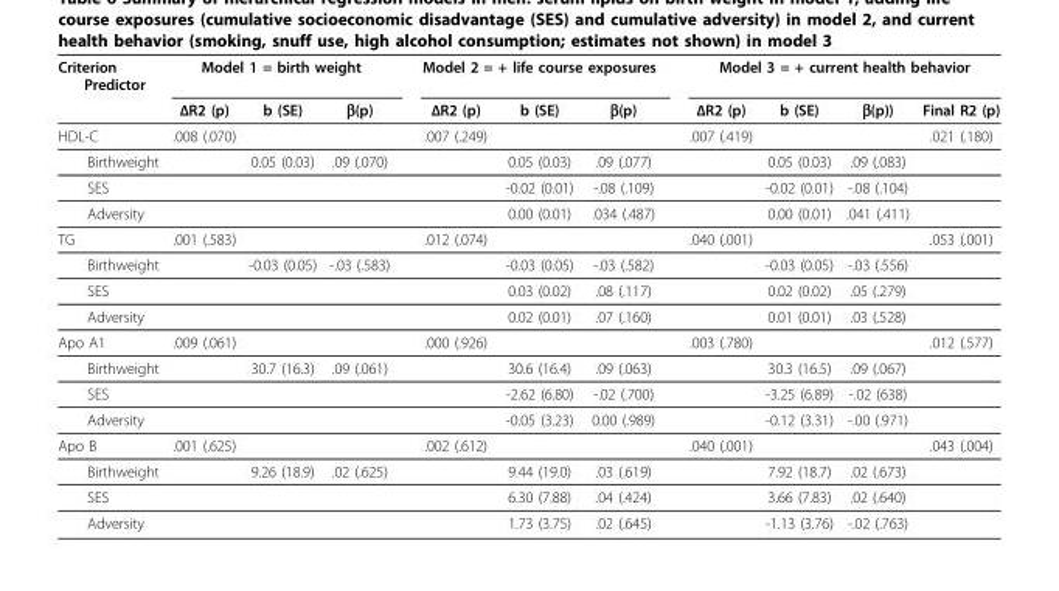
<table><thead><tr><td rowspan="2">Criterion Predictor</td><td colspan="3">Model 1 = birth weight</td><td colspan="3">Model 2 = + life course exposures</td><td colspan="4">Model 3 = + current health behavior</td></tr><tr><td>ΔR2 (p)</td><td>b (SE)</td><td>β(p)</td><td>ΔR2 (p)</td><td>b (SE)</td><td>β(p)</td><td>ΔR2 (p)</td><td>b (SE)</td><td>β(p))</td><td>Final R2 (p)</td></tr></thead><tbody><tr><td>HDL-C</td><td>.008 (.070)</td><td></td><td></td><td>.007 (.249)</td><td></td><td></td><td>.007 (.419)</td><td></td><td></td><td>.021 (.180)</td></tr><tr><td>Birthweight</td><td></td><td>0.05 (0.03)</td><td>.09 (.070)</td><td></td><td>0.05 (0.03)</td><td>.09 (.077)</td><td></td><td>0.05 (0.03)</td><td>.09 (.083)</td><td></td></tr><tr><td>SES</td><td></td><td></td><td></td><td></td><td>-0.02 (0.01)</td><td>-.08 (.109)</td><td></td><td>-0.02 (0.01)</td><td>-.08 (.104)</td><td></td></tr><tr><td>Adversity</td><td></td><td></td><td></td><td></td><td>0.00 (0.01)</td><td>.034 (.487)</td><td></td><td>0.00 (0.01)</td><td>.041 (.411)</td><td></td></tr><tr><td>TG</td><td>.001 (.583)</td><td></td><td></td><td>.012 (.074)</td><td></td><td></td><td>.040 (.001)</td><td></td><td></td><td>.053 (.001)</td></tr><tr><td>Birthweight</td><td></td><td>-0.03 (0.05)</td><td>-.03 (.583)</td><td></td><td>-0.03 (0.05)</td><td>-.03 (.582)</td><td></td><td>-0.03 (0.05)</td><td>-.03 (.556)</td><td></td></tr><tr><td>SES</td><td></td><td></td><td></td><td></td><td>0.03 (0.02)</td><td>.08 (.117)</td><td></td><td>0.02 (0.02)</td><td>.05 (.279)</td><td></td></tr><tr><td>Adversity</td><td></td><td></td><td></td><td></td><td>0.02 (0.01)</td><td>.07 (.160)</td><td></td><td>0.01 (0.01)</td><td>.03 (.528)</td><td></td></tr><tr><td>Apo A1</td><td>.009 (.061)</td><td></td><td></td><td>.000 (.926)</td><td></td><td></td><td>.003 (.780)</td><td></td><td></td><td>.012 (.577)</td></tr><tr><td>Birthweight</td><td></td><td>30.7 (16.3)</td><td>.09 (.061)</td><td></td><td>30.6 (16.4)</td><td>.09 (.063)</td><td></td><td>30.3 (16.5)</td><td>.09 (.067)</td><td></td></tr><tr><td>SES</td><td></td><td></td><td></td><td></td><td>-2.62 (6.80)</td><td>-.02 (.700)</td><td></td><td>-3.25 (6.89)</td><td>-.02 (638)</td><td></td></tr><tr><td>Adversity</td><td></td><td></td><td></td><td></td><td>-0.05 (3.23)</td><td>0.00 (.989)</td><td></td><td>-0.12 (3.31)</td><td>-.00 (.971)</td><td></td></tr><tr><td>Apo B</td><td>.001 (.625)</td><td></td><td></td><td>.002 (.612)</td><td></td><td></td><td>.040 (.001)</td><td></td><td></td><td>.043 (.004)</td></tr><tr><td>Birthweight</td><td></td><td>9.26 (18.9)</td><td>.02 (.625)</td><td></td><td>9.44 (19.0)</td><td>.03 (.619)</td><td></td><td>7.92 (18.7)</td><td>.02 (.673)</td><td></td></tr><tr><td>SES</td><td></td><td></td><td></td><td></td><td>6.30 (7.88)</td><td>.04 (.424)</td><td></td><td>3.66 (7.83)</td><td>.02 (.640)</td><td></td></tr><tr><td>Adversity</td><td></td><td></td><td></td><td></td><td>1.73 (3.75)</td><td>.02 (.645)</td><td></td><td>-1.13 (3.76)</td><td>-.02 (.763)</td><td></td></tr></tbody></table>